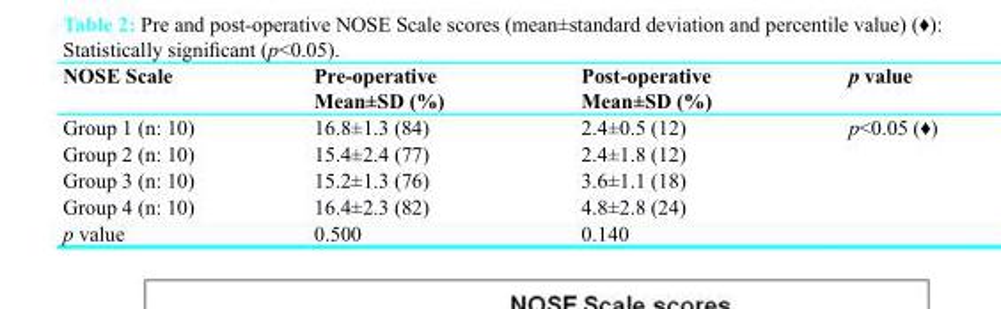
<table><thead><tr><td>NOSE Scale</td><td>Pre-operative Mean±SD (%)</td><td>Post-operative Mean±SD (%)</td><td>p value</td></tr></thead><tbody><tr><td>Group 1 (n: 10)</td><td>16.8±1.3 (84)</td><td>2.4±0.5 (12)</td><td rowspan="4">p&lt;0.05 (♦)</td></tr><tr><td>Group 2 (n: 10)</td><td>15.4±2.4 (77)</td><td>2.4±1.8 (12)</td></tr><tr><td>Group 3 (n: 10)</td><td>15.2±1.3 (76)</td><td>3.6±1.1 (18)</td></tr><tr><td>Group 4 (n: 10)</td><td>16.4±2.3 (82)</td><td>4.8±2.8 (24)</td></tr><tr><td>p value</td><td>0.500</td><td>0.140</td><td></td></tr></tbody></table>